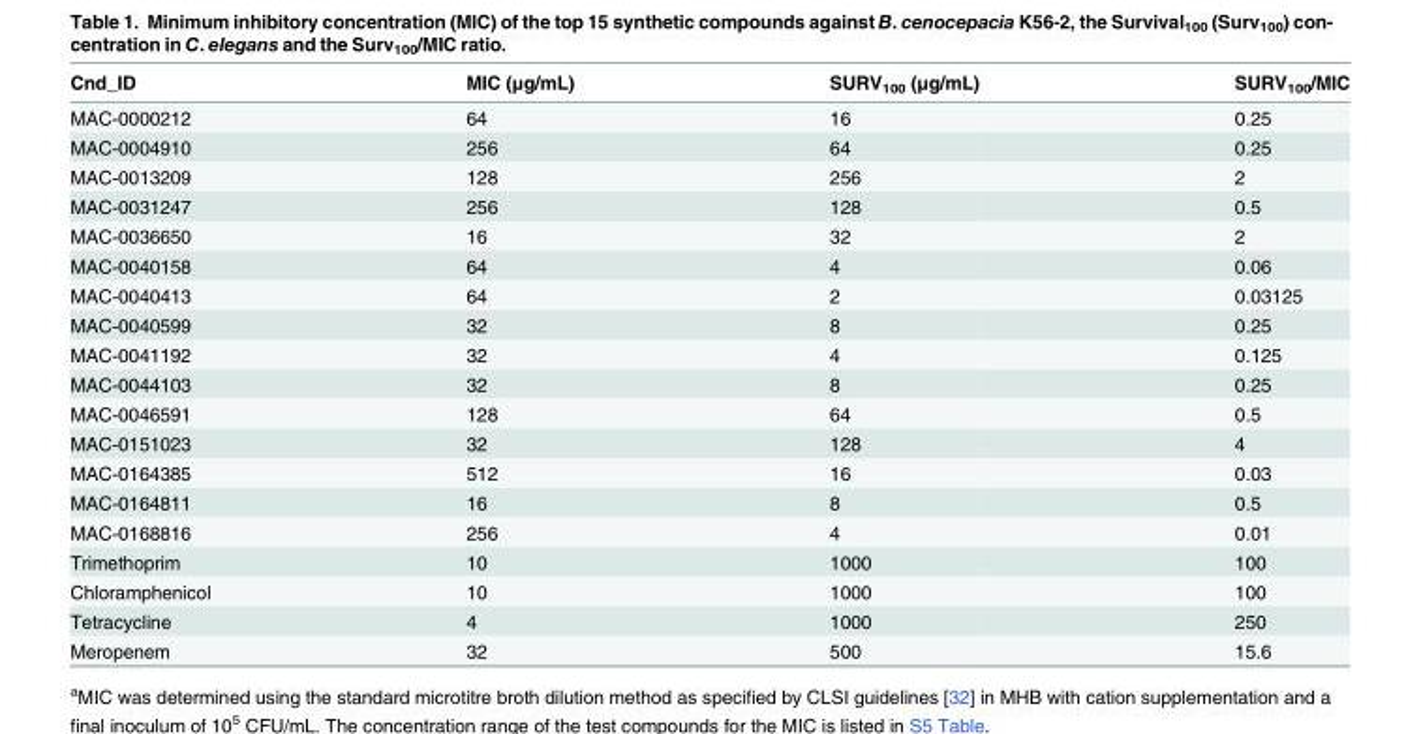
<table><thead><tr><td>Cnd_ID</td><td>MIC (μg/mL)</td><td>SURV<sub>100</sub> (μg/mL)</td><td>SURV<sub>100</sub>/MIC</td></tr></thead><tbody><tr><td>MAC-0000212</td><td>64</td><td>16</td><td>0.25</td></tr><tr><td>MAC-0004910</td><td>256</td><td>64</td><td>0.25</td></tr><tr><td>MAC-0013209</td><td>128</td><td>256</td><td>2</td></tr><tr><td>MAC-0031247</td><td>256</td><td>128</td><td>0.5</td></tr><tr><td>MAC-0036650</td><td>16</td><td>32</td><td>2</td></tr><tr><td>MAC-0040158</td><td>64</td><td>4</td><td>0.06</td></tr><tr><td>MAC-0040413</td><td>64</td><td>2</td><td>0.03125</td></tr><tr><td>MAC-0040599</td><td>32</td><td>8</td><td>0.25</td></tr><tr><td>MAC-0041192</td><td>32</td><td>4</td><td>0.125</td></tr><tr><td>MAC-0044103</td><td>32</td><td>8</td><td>0.25</td></tr><tr><td>MAC-0046591</td><td>128</td><td>64</td><td>0.5</td></tr><tr><td>MAC-0151023</td><td>32</td><td>128</td><td>4</td></tr><tr><td>MAC-0164385</td><td>512</td><td>16</td><td>0.03</td></tr><tr><td>MAC-0164811</td><td>16</td><td>8</td><td>0.5</td></tr><tr><td>MAC-0168816</td><td>256</td><td>4</td><td>0.01</td></tr><tr><td>Trimethoprim</td><td>10</td><td>1000</td><td>100</td></tr><tr><td>Chloramphenicol</td><td>10</td><td>1000</td><td>100</td></tr><tr><td>Tetracycline</td><td>4</td><td>1000</td><td>250</td></tr><tr><td>Meropenem</td><td>32</td><td>500</td><td>15.6</td></tr></tbody></table>